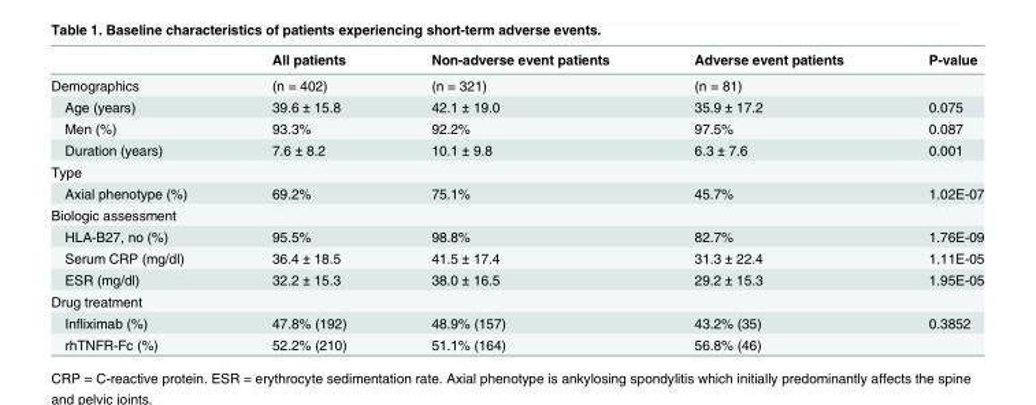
<table><thead><tr><td></td><td>All patients</td><td>Non-adverse event patients</td><td>Adverse event patients</td><td>P-value</td></tr></thead><tbody><tr><td>Demographics</td><td>(n = 402)</td><td>(n = 321)</td><td>(n = 81)</td><td></td></tr><tr><td>Age (years)</td><td>39.6 ± 15.8</td><td>42.1 ± 19.0</td><td>35.9 ± 17.2</td><td>0.075</td></tr><tr><td>Men (%)</td><td>93.3%</td><td>92.2%</td><td>97.5%</td><td>0.087</td></tr><tr><td>Duration (years)</td><td>7.6 ± 8.2</td><td>10.1 ± 9.8</td><td>6.3 ± 7.6</td><td>0.001</td></tr><tr><td colspan="5">Type</td></tr><tr><td>Axial phenotype (%)</td><td>69.2%</td><td>75.1%</td><td>45.7%</td><td>1.02E-07</td></tr><tr><td colspan="5">Biologic assessment</td></tr><tr><td>HLA-B27, no (%)</td><td>95.5%</td><td>98.8%</td><td>82.7%</td><td>1.76E-09</td></tr><tr><td>Serum CRP (mg/dl)</td><td>36.4 ± 18.5</td><td>41.5 ± 17.4</td><td>31.3 ± 22.4</td><td>1.11E-05</td></tr><tr><td>ESR (mg/dl)</td><td>32.2 ± 15.3</td><td>38.0 ± 16.5</td><td>29.2 ± 15.3</td><td>1.95E-05</td></tr><tr><td colspan="5">Drug treatment</td></tr><tr><td>Infliximab (%)</td><td>47.8% (192)</td><td>48.9% (157)</td><td>43.2% (35)</td><td>0.3852</td></tr><tr><td>rhTNFR-Fc (%)</td><td>52.2% (210)</td><td>51.1% (164)</td><td>56.8% (46)</td><td></td></tr></tbody></table>